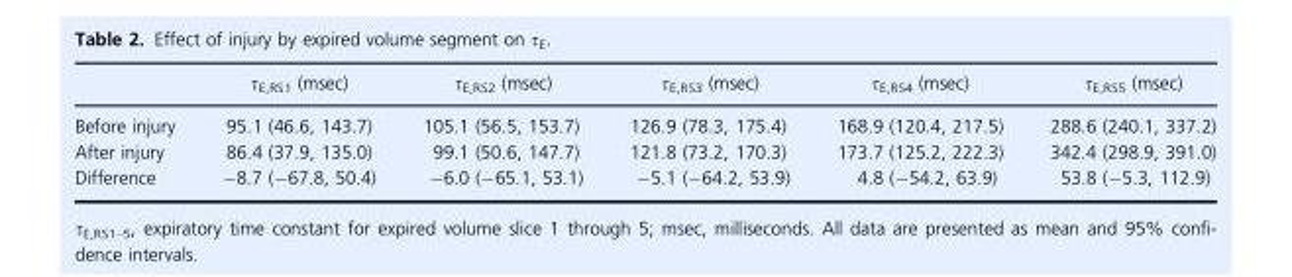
<table><thead><tr><td></td><td>τ<sub>E,RS1</sub> (msec)</td><td>τ<sub>E,RS2</sub> (msec)</td><td>τ<sub>E,RS3</sub> (msec)</td><td>τ<sub>E,RS4</sub> (msec)</td><td>τ<sub>E,RS5</sub> (msec)</td></tr></thead><tbody><tr><td>Before injury</td><td>95.1 (46.6, 143.7)</td><td>105.1 (56.5, 153.7)</td><td>126.9 (78.3, 175.4)</td><td>168.9 (120.4, 217.5)</td><td>288.6 (240.1, 337.2)</td></tr><tr><td>After injury</td><td>86.4 (37.9, 135.0)</td><td>99.1 (50.6, 147.7)</td><td>121.8 (73.2, 170.3)</td><td>173.7 (125.2, 222.3)</td><td>342.4 (298.9, 391.0)</td></tr><tr><td>Difference</td><td>−8.7 (−67.8, 50.4)</td><td>−6.0 (−65.1, 53.1)</td><td>−5.1 (−64.2, 53.9)</td><td>4.8 (−54.2, 63.9)</td><td>53.8 (−5.3, 112.9)</td></tr></tbody></table>